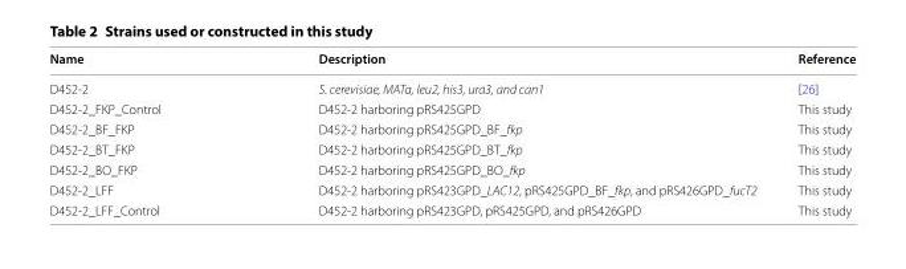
<table><thead><tr><td>Name</td><td>Description</td><td>Reference</td></tr></thead><tbody><tr><td>D452‑2</td><td>S. cerevisiae, MATα, leu2, his3, ura3, and can1</td><td>[26]</td></tr><tr><td>D452‑2_FKP_Control</td><td>D452‑2 harboring pRS425GPD</td><td>This study</td></tr><tr><td>D452‑2_BF_FKP</td><td>D452‑2 harboring pRS425GPD_BF_fkp</td><td>This study</td></tr><tr><td>D452‑2_BT_FKP</td><td>D452‑2 harboring pRS425GPD_BT_fkp</td><td>This study</td></tr><tr><td>D452‑2_BO_FKP</td><td>D452‑2 harboring pRS425GPD_BO_fkp</td><td>This study</td></tr><tr><td>D452‑2_LFF</td><td>D452‑2 harboring pRS423GPD_LAC12, pRS425GPD_BF_fkp, and pRS426GPD_fucT2</td><td>This study</td></tr><tr><td>D452‑2_LFF_Control</td><td>D452‑2 harboring pRS423GPD, pRS425GPD, and pRS426GPD</td><td>This study</td></tr></tbody></table>